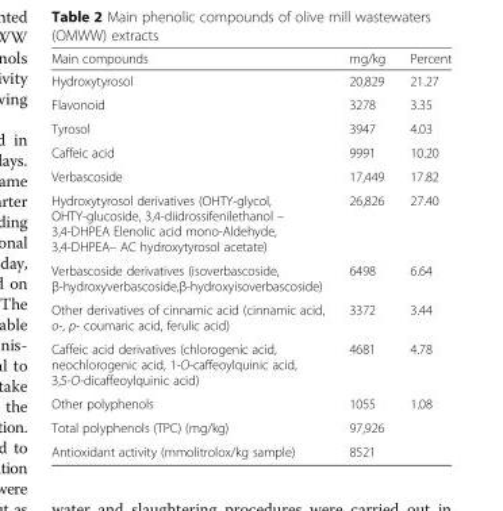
<table><thead><tr><td>Main compounds</td><td>mg/kg</td><td>Percent</td></tr></thead><tbody><tr><td>Hydroxytyrosol</td><td>20,829</td><td>21.27</td></tr><tr><td>Flavonoid</td><td>3278</td><td>3.35</td></tr><tr><td>Tyrosol</td><td>3947</td><td>4.03</td></tr><tr><td>Caffeic acid</td><td>9991</td><td>10.20</td></tr><tr><td>Verbascoside</td><td>17,449</td><td>17.82</td></tr><tr><td>Hydroxytyrosol derivatives (OHTY-glycol, OHTY-glucoside, 3,4-diidrossifenilethanol – 3,4-DHPEA Elenolic acid mono-Aldehyde, 3,4-DHPEA– AC hydroxytyrosol acetate)</td><td>26,826</td><td>27.40</td></tr><tr><td>Verbascoside derivatives (isoverbascoside, β-hydroxyverbascoside,β-hydroxyisoverbascoside)</td><td>6498</td><td>6.64</td></tr><tr><td>Other derivatives of cinnamic acid (cinnamic acid, o-, p- coumaric acid, ferulic acid)</td><td>3372</td><td>3.44</td></tr><tr><td>Caffeic acid derivatives (chlorogenic acid, neochlorogenic acid, 1-O-caffeoylquinic acid, 3,5-O-dicaffeoylquinic acid)</td><td>4681</td><td>4.78</td></tr><tr><td>Other polyphenols</td><td>1055</td><td>1.08</td></tr><tr><td>Total polyphenols (TPC) (mg/kg)</td><td>97,926</td><td></td></tr><tr><td>Antioxidant activity (mmolitrolox/kg sample)</td><td>8521</td><td></td></tr></tbody></table>